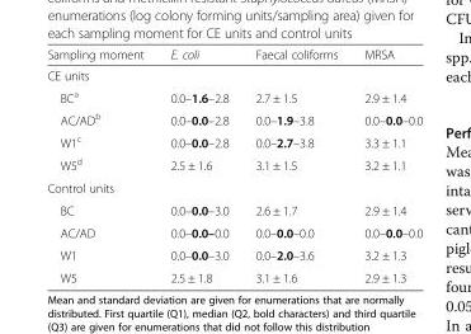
<table><thead><tr><td>Sampling moment</td><td>E. coli</td><td>Faecal coliforms</td><td>MRSA</td></tr></thead><tbody><tr><td colspan="4">CE units</td></tr><tr><td>BC<sup>a</sup></td><td>0.0–1.6–2.8</td><td>2.7 ± 1.5</td><td>2.9 ± 1.4</td></tr><tr><td>AC/AD<sup>b</sup></td><td>0.0–0.0–2.8</td><td>0.0–1.9–3.8</td><td>0.0–0.0–0.0</td></tr><tr><td>W1<sup>c</sup></td><td>0.0–0.0–2.8</td><td>0.0–2.7–3.8</td><td>3.3 ± 1.1</td></tr><tr><td>W5<sup>d</sup></td><td>2.5 ± 1.6</td><td>3.1 ± 1.5</td><td>3.2 ± 1.1</td></tr><tr><td colspan="4">Control units</td></tr><tr><td>BC</td><td>0.0–0.0–3.0</td><td>2.6 ± 1.7</td><td>2.9 ± 1.4</td></tr><tr><td>AC/AD</td><td>0.0–0.0–0.0</td><td>0.0–0.0–0.0</td><td>0.0–0.0–0.0</td></tr><tr><td>W1</td><td>0.0–0.0–3.0</td><td>0.0–2.0–3.6</td><td>3.2 ± 1.3</td></tr><tr><td>W5</td><td>2.5 ± 1.8</td><td>3.1 ± 1.6</td><td>2.9 ± 1.3</td></tr></tbody></table>